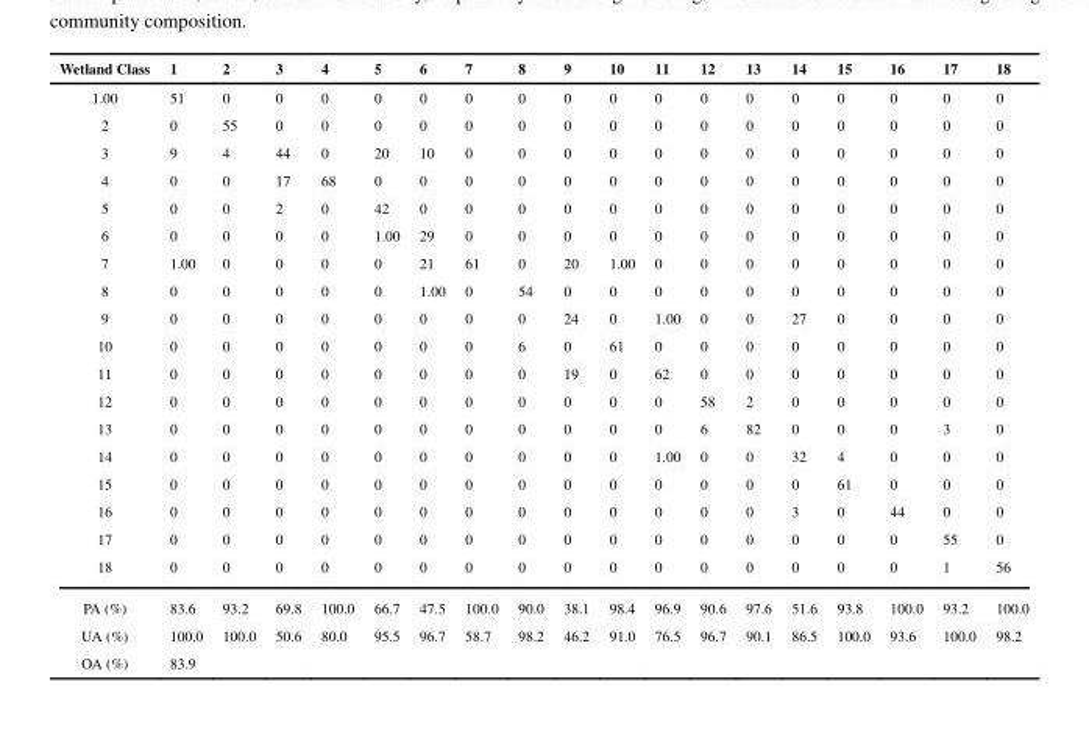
<table><thead><tr><td>Wetland Class</td><td>1</td><td>2</td><td>3</td><td>4</td><td>5</td><td>6</td><td>7</td><td>8</td><td>9</td><td>10</td><td>11</td><td>12</td><td>13</td><td>14</td><td>15</td><td>16</td><td>17</td><td>18</td></tr></thead><tbody><tr><td>1.00</td><td>51</td><td>0</td><td>0</td><td>0</td><td>0</td><td>0</td><td>0</td><td>0</td><td>0</td><td>0</td><td>0</td><td>0</td><td>0</td><td>0</td><td>0</td><td>0</td><td>0</td><td>0</td></tr><tr><td>2</td><td>0</td><td>55</td><td>0</td><td>0</td><td>0</td><td>0</td><td>0</td><td>0</td><td>0</td><td>0</td><td>0</td><td>0</td><td>0</td><td>0</td><td>0</td><td>0</td><td>0</td><td>0</td></tr><tr><td>3</td><td>9</td><td>4</td><td>44</td><td>0</td><td>20</td><td>10</td><td>0</td><td>0</td><td>0</td><td>0</td><td>0</td><td>0</td><td>0</td><td>0</td><td>0</td><td>0</td><td>0</td><td>0</td></tr><tr><td>4</td><td>0</td><td>0</td><td>17</td><td>68</td><td>0</td><td>0</td><td>0</td><td>0</td><td>0</td><td>0</td><td>0</td><td>0</td><td>0</td><td>0</td><td>0</td><td>0</td><td>0</td><td>0</td></tr><tr><td>5</td><td>0</td><td>0</td><td>2</td><td>0</td><td>42</td><td>0</td><td>0</td><td>0</td><td>0</td><td>0</td><td>0</td><td>0</td><td>0</td><td>0</td><td>0</td><td>0</td><td>0</td><td>0</td></tr><tr><td>6</td><td>0</td><td>0</td><td>0</td><td>0</td><td>1.00</td><td>29</td><td>0</td><td>0</td><td>0</td><td>0</td><td>0</td><td>0</td><td>0</td><td>0</td><td>0</td><td>0</td><td>0</td><td>0</td></tr><tr><td>7</td><td>1.00</td><td>0</td><td>0</td><td>0</td><td>0</td><td>21</td><td>61</td><td>0</td><td>20</td><td>1.00</td><td>0</td><td>0</td><td>0</td><td>0</td><td>0</td><td>0</td><td>0</td><td>0</td></tr><tr><td>8</td><td>0</td><td>0</td><td>0</td><td>0</td><td>0</td><td>1.00</td><td>0</td><td>54</td><td>0</td><td>0</td><td>0</td><td>0</td><td>0</td><td>0</td><td>0</td><td>0</td><td>0</td><td>0</td></tr><tr><td>9</td><td>0</td><td>0</td><td>0</td><td>0</td><td>0</td><td>0</td><td>0</td><td>0</td><td>24</td><td>0</td><td>1.00</td><td>0</td><td>0</td><td>27</td><td>0</td><td>0</td><td>0</td><td>0</td></tr><tr><td>10</td><td>0</td><td>0</td><td>0</td><td>0</td><td>0</td><td>0</td><td>0</td><td>6</td><td>0</td><td>61</td><td>0</td><td>0</td><td>0</td><td>0</td><td>0</td><td>0</td><td>0</td><td>0</td></tr><tr><td>11</td><td>0</td><td>0</td><td>0</td><td>0</td><td>0</td><td>0</td><td>0</td><td>0</td><td>19</td><td>0</td><td>62</td><td>0</td><td>0</td><td>0</td><td>0</td><td>0</td><td>0</td><td>0</td></tr><tr><td>12</td><td>0</td><td>0</td><td>0</td><td>0</td><td>0</td><td>0</td><td>0</td><td>0</td><td>0</td><td>0</td><td>0</td><td>58</td><td>2</td><td>0</td><td>0</td><td>0</td><td>0</td><td>0</td></tr><tr><td>13</td><td>0</td><td>0</td><td>0</td><td>0</td><td>0</td><td>0</td><td>0</td><td>0</td><td>0</td><td>0</td><td>0</td><td>6</td><td>82</td><td>0</td><td>0</td><td>0</td><td>3</td><td>0</td></tr><tr><td>14</td><td>0</td><td>0</td><td>0</td><td>0</td><td>0</td><td>0</td><td>0</td><td>0</td><td>0</td><td>0</td><td>1.00</td><td>0</td><td>0</td><td>32</td><td>4</td><td>0</td><td>0</td><td>0</td></tr><tr><td>15</td><td>0</td><td>0</td><td>0</td><td>0</td><td>0</td><td>0</td><td>0</td><td>0</td><td>0</td><td>0</td><td>0</td><td>0</td><td>0</td><td>0</td><td>61</td><td>0</td><td>0</td><td>0</td></tr><tr><td>16</td><td>0</td><td>0</td><td>0</td><td>0</td><td>0</td><td>0</td><td>0</td><td>0</td><td>0</td><td>0</td><td>0</td><td>0</td><td>0</td><td>3</td><td>0</td><td>44</td><td>0</td><td>0</td></tr><tr><td>17</td><td>0</td><td>0</td><td>0</td><td>0</td><td>0</td><td>0</td><td>0</td><td>0</td><td>0</td><td>0</td><td>0</td><td>0</td><td>0</td><td>0</td><td>0</td><td>0</td><td>55</td><td>0</td></tr><tr><td>18</td><td>0</td><td>0</td><td>0</td><td>0</td><td>0</td><td>0</td><td>0</td><td>0</td><td>0</td><td>0</td><td>0</td><td>0</td><td>0</td><td>0</td><td>0</td><td>0</td><td>1</td><td>56</td></tr><tr><td>PA (%)</td><td>83.6</td><td>93.2</td><td>69.8</td><td>100.0</td><td>66.7</td><td>47.5</td><td>100.0</td><td>90.0</td><td>38.1</td><td>98.4</td><td>96.9</td><td>90.6</td><td>97.6</td><td>51.6</td><td>93.8</td><td>100.0</td><td>93.2</td><td>100.0</td></tr><tr><td>UA (%)</td><td>100.0</td><td>100.0</td><td>50.6</td><td>80.0</td><td>95.5</td><td>96.7</td><td>58.7</td><td>98.2</td><td>46.2</td><td>91.0</td><td>76.5</td><td>96.7</td><td>90.1</td><td>86.5</td><td>100.0</td><td>93.6</td><td>100.0</td><td>98.2</td></tr><tr><td>OA (%)</td><td>83.9</td><td></td><td></td><td></td><td></td><td></td><td></td><td></td><td></td><td></td><td></td><td></td><td></td><td></td><td></td><td></td><td></td><td></td></tr></tbody></table>